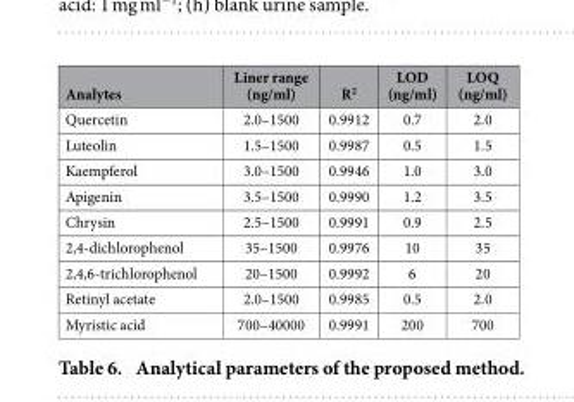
<table><thead><tr><td>Analytes</td><td>Liner range (ng/ml)</td><td>R<sup>2</sup></td><td>LOD (ng/ml)</td><td>LOQ (ng/ml)</td></tr></thead><tbody><tr><td>Quercetin</td><td>2.0–1500</td><td>0.9912</td><td>0.7</td><td>2.0</td></tr><tr><td>Luteolin</td><td>1.5–1500</td><td>0.9987</td><td>0.5</td><td>1.5</td></tr><tr><td>Kaempferol</td><td>3.0–1500</td><td>0.9946</td><td>1.0</td><td>3.0</td></tr><tr><td>Apigenin</td><td>3.5–1500</td><td>0.9990</td><td>1.2</td><td>3.5</td></tr><tr><td>Chrysin</td><td>2.5–1500</td><td>0.9991</td><td>0.9</td><td>2.5</td></tr><tr><td>2,4-dichlorophenol</td><td>35–1500</td><td>0.9976</td><td>10</td><td>35</td></tr><tr><td>2,4,6-trichlorophenol</td><td>20–1500</td><td>0.9992</td><td>6</td><td>20</td></tr><tr><td>Retinyl acetate</td><td>2.0–1500</td><td>0.9985</td><td>0.5</td><td>2.0</td></tr><tr><td>Myristic acid</td><td>700–40000</td><td>0.9991</td><td>200</td><td>700</td></tr></tbody></table>